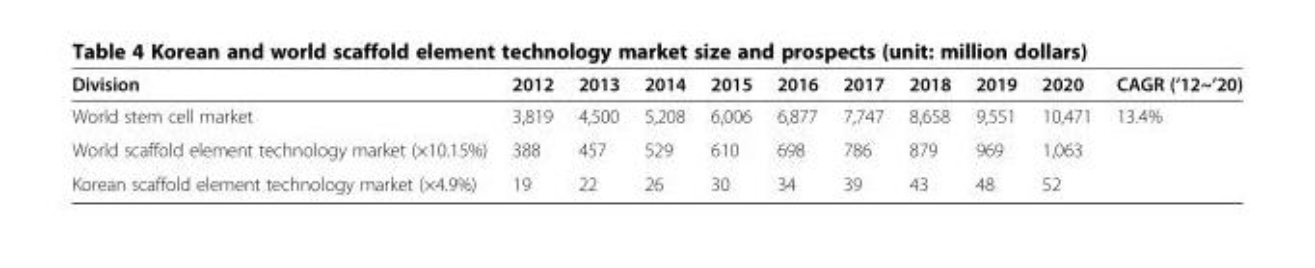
<table><thead><tr><td>Division</td><td>2012</td><td>2013</td><td>2014</td><td>2015</td><td>2016</td><td>2017</td><td>2018</td><td>2019</td><td>2020</td><td>CAGR (‘12~’20)</td></tr></thead><tbody><tr><td>World stem cell market</td><td>3,819</td><td>4,500</td><td>5,208</td><td>6,006</td><td>6,877</td><td>7,747</td><td>8,658</td><td>9,551</td><td>10,471</td><td rowspan="3">13.4%</td></tr><tr><td>World scaffold element technology market (×10.15%)</td><td>388</td><td>457</td><td>529</td><td>610</td><td>698</td><td>786</td><td>879</td><td>969</td><td>1,063</td></tr><tr><td>Korean scaffold element technology market (×4.9%)</td><td>19</td><td>22</td><td>26</td><td>30</td><td>34</td><td>39</td><td>43</td><td>48</td><td>52</td></tr></tbody></table>